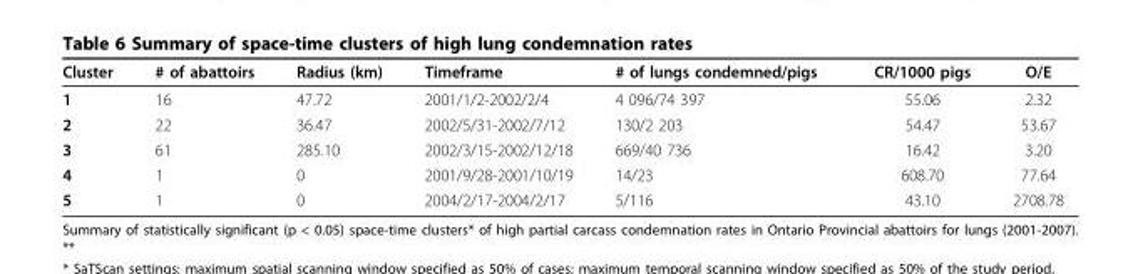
<table><thead><tr><td>Cluster</td><td># of abattoirs</td><td>Radius (km)</td><td>Timeframe</td><td># of lungs condemned/pigs</td><td>CR/1000 pigs</td><td>O/E</td></tr></thead><tbody><tr><td>1</td><td>16</td><td>47.72</td><td>2001/1/2-2002/2/4</td><td>4 096/74 397</td><td>55.06</td><td>2.32</td></tr><tr><td>2</td><td>22</td><td>36.47</td><td>2002/5/31-2002/7/12</td><td>130/2 203</td><td>54.47</td><td>53.67</td></tr><tr><td>3</td><td>61</td><td>285.10</td><td>2002/3/15-2002/12/18</td><td>669/40 736</td><td>16.42</td><td>3.20</td></tr><tr><td>4</td><td>1</td><td>0</td><td>2001/9/28-2001/10/19</td><td>14/23</td><td>608.70</td><td>77.64</td></tr><tr><td>5</td><td>1</td><td>0</td><td>2004/2/17-2004/2/17</td><td>5/116</td><td>43.10</td><td>2708.78</td></tr></tbody></table>